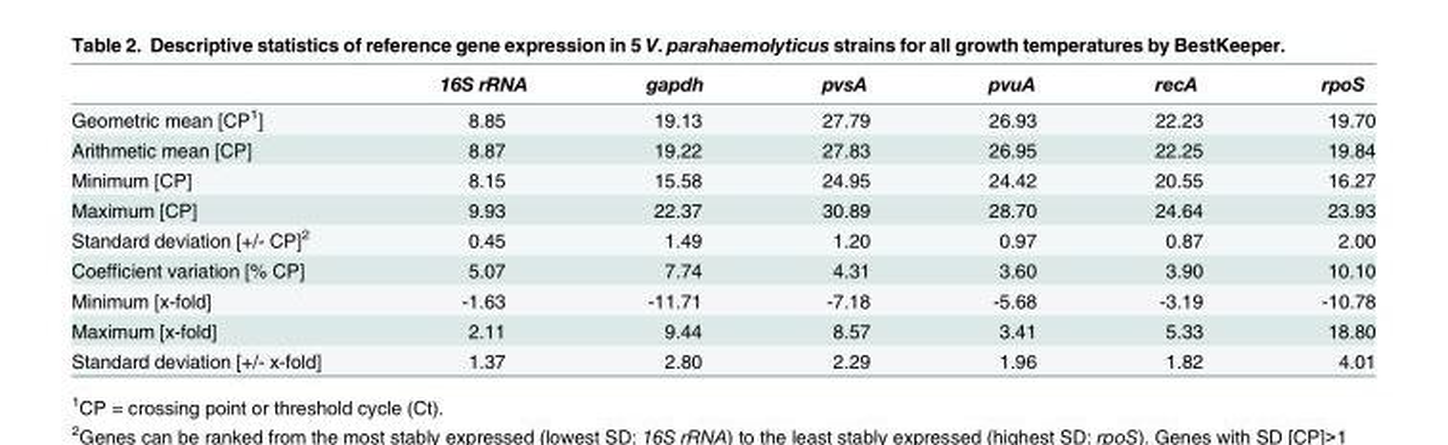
<table><thead><tr><td></td><td>16S rRNA</td><td>gapdh</td><td>pvsA</td><td>pvuA</td><td>recA</td><td>rpoS</td></tr></thead><tbody><tr><td>Geometric mean [CP<sup>1</sup>]</td><td>8.85</td><td>19.13</td><td>27.79</td><td>26.93</td><td>22.23</td><td>19.70</td></tr><tr><td>Arithmetic mean [CP]</td><td>8.87</td><td>19.22</td><td>27.83</td><td>26.95</td><td>22.25</td><td>19.84</td></tr><tr><td>Minimum [CP]</td><td>8.15</td><td>15.58</td><td>24.95</td><td>24.42</td><td>20.55</td><td>16.27</td></tr><tr><td>Maximum [CP]</td><td>9.93</td><td>22.37</td><td>30.89</td><td>28.70</td><td>24.64</td><td>23.93</td></tr><tr><td>Standard deviation [+/- CP]<sup>2</sup></td><td>0.45</td><td>1.49</td><td>1.20</td><td>0.97</td><td>0.87</td><td>2.00</td></tr><tr><td>Coefficient variation [% CP]</td><td>5.07</td><td>7.74</td><td>4.31</td><td>3.60</td><td>3.90</td><td>10.10</td></tr><tr><td>Minimum [x-fold]</td><td>-1.63</td><td>-11.71</td><td>-7.18</td><td>-5.68</td><td>-3.19</td><td>-10.78</td></tr><tr><td>Maximum [x-fold]</td><td>2.11</td><td>9.44</td><td>8.57</td><td>3.41</td><td>5.33</td><td>18.80</td></tr><tr><td>Standard deviation [+/- x-fold]</td><td>1.37</td><td>2.80</td><td>2.29</td><td>1.96</td><td>1.82</td><td>4.01</td></tr></tbody></table>